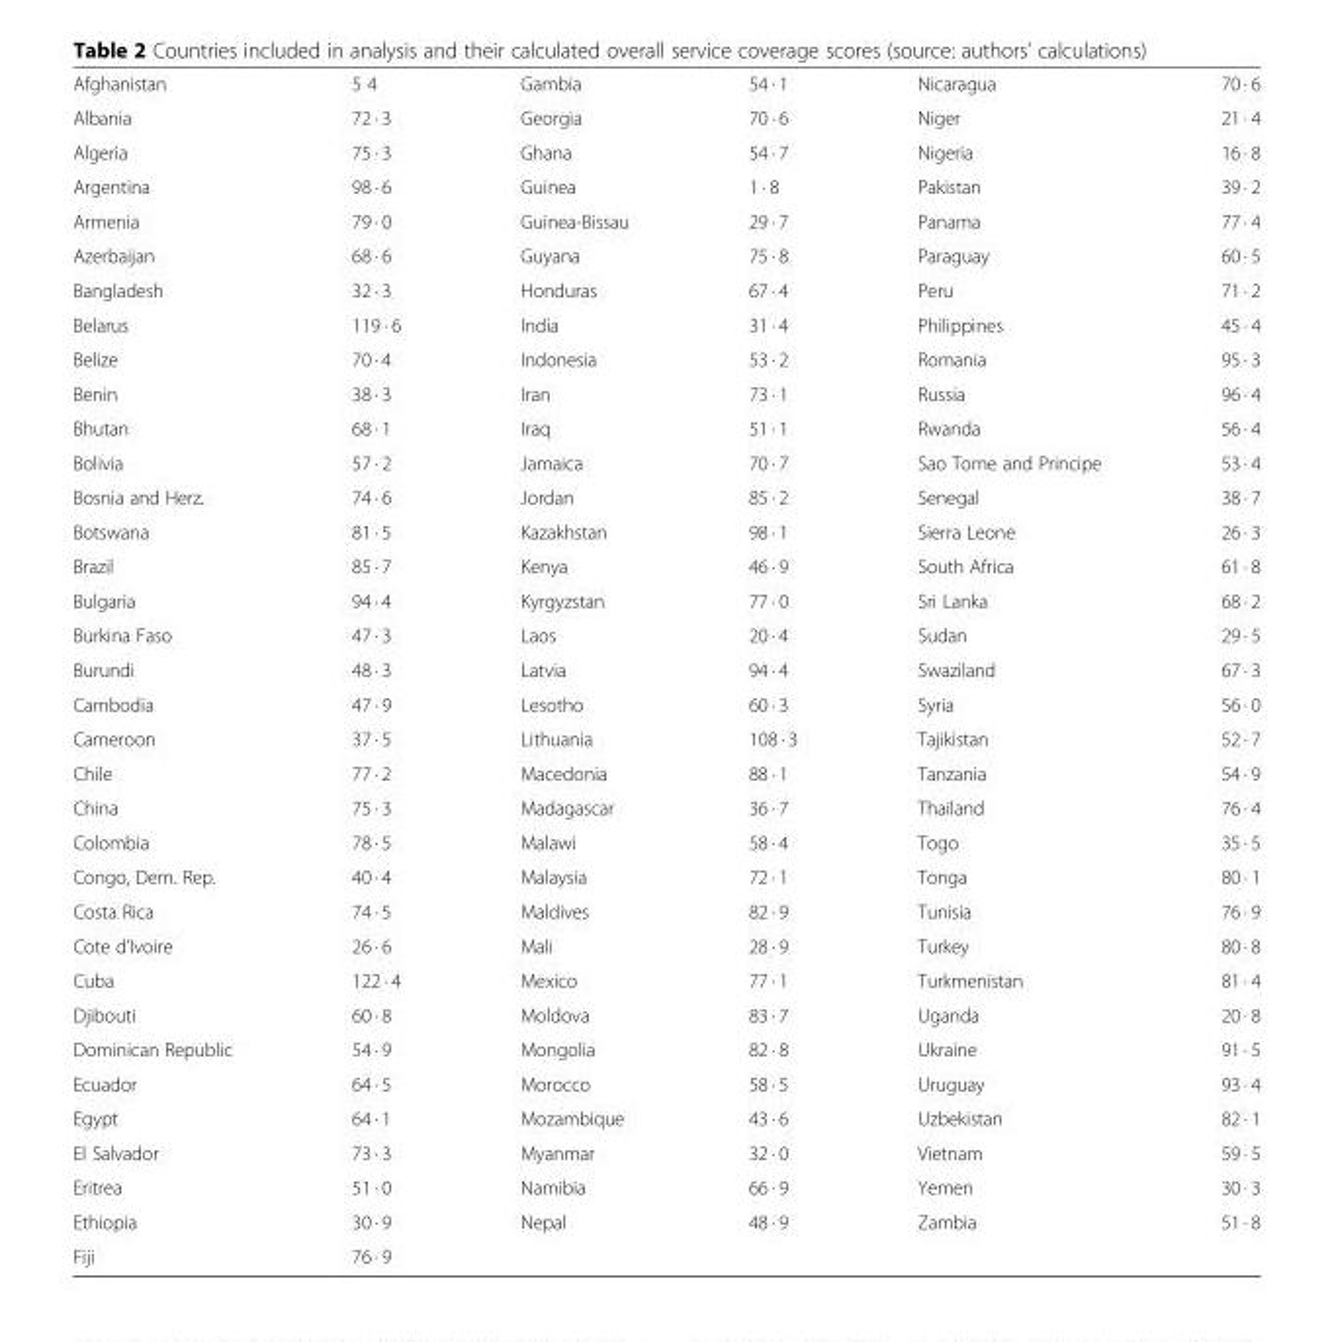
<table><tbody><tr><td>Afghanistan</td><td>5 4</td><td>Gambia</td><td>54 · 1</td><td>Nicaragua</td><td>70 · 6</td></tr><tr><td>Albania</td><td>72 · 3</td><td>Georgia</td><td>70 · 6</td><td>Niger</td><td>21 · 4</td></tr><tr><td>Algeria</td><td>75 · 3</td><td>Ghana</td><td>54 · 7</td><td>Nigeria</td><td>16 · 8</td></tr><tr><td>Argentina</td><td>98 · 6</td><td>Guinea</td><td>1 · 8</td><td>Pakistan</td><td>39 · 2</td></tr><tr><td>Armenia</td><td>79 · 0</td><td>Guinea-Bissau</td><td>29 · 7</td><td>Panama</td><td>77 · 4</td></tr><tr><td>Azerbaijan</td><td>68 · 6</td><td>Guyana</td><td>75 · 8</td><td>Paraguay</td><td>60 · 5</td></tr><tr><td>Bangladesh</td><td>32 · 3</td><td>Honduras</td><td>67 · 4</td><td>Peru</td><td>71 · 2</td></tr><tr><td>Belarus</td><td>119 · 6</td><td>India</td><td>31 · 4</td><td>Philippines</td><td>45 · 4</td></tr><tr><td>Belize</td><td>70 · 4</td><td>Indonesia</td><td>53 · 2</td><td>Romania</td><td>95 · 3</td></tr><tr><td>Benin</td><td>38 · 3</td><td>Iran</td><td>73 · 1</td><td>Russia</td><td>96 · 4</td></tr><tr><td>Bhutan</td><td>68 · 1</td><td>Iraq</td><td>51 · 1</td><td>Rwanda</td><td>56 · 4</td></tr><tr><td>Bolivia</td><td>57 · 2</td><td>Jamaica</td><td>70 · 7</td><td>Sao Tome and Principe</td><td>53 · 4</td></tr><tr><td>Bosnia and Herz.</td><td>74 · 6</td><td>Jordan</td><td>85 · 2</td><td>Senegal</td><td>38 · 7</td></tr><tr><td>Botswana</td><td>81 · 5</td><td>Kazakhstan</td><td>98 · 1</td><td>Sierra Leone</td><td>26 · 3</td></tr><tr><td>Brazil</td><td>85 · 7</td><td>Kenya</td><td>46 · 9</td><td>South Africa</td><td>61 · 8</td></tr><tr><td>Bulgaria</td><td>94 · 4</td><td>Kyrgyzstan</td><td>77 · 0</td><td>Sri Lanka</td><td>68 · 2</td></tr><tr><td>Burkina Faso</td><td>47 · 3</td><td>Laos</td><td>20 · 4</td><td>Sudan</td><td>29 · 5</td></tr><tr><td>Burundi</td><td>48 · 3</td><td>Latvia</td><td>94 · 4</td><td>Swaziland</td><td>67 · 3</td></tr><tr><td>Cambodia</td><td>47 · 9</td><td>Lesotho</td><td>60 · 3</td><td>Syria</td><td>56 · 0</td></tr><tr><td>Cameroon</td><td>37 · 5</td><td>Lithuania</td><td>108 · 3</td><td>Tajikistan</td><td>52 · 7</td></tr><tr><td>Chile</td><td>77 · 2</td><td>Macedonia</td><td>88 · 1</td><td>Tanzania</td><td>54 · 9</td></tr><tr><td>China</td><td>75 · 3</td><td>Madagascar</td><td>36 · 7</td><td>Thailand</td><td>76 · 4</td></tr><tr><td>Colombia</td><td>78 · 5</td><td>Malawi</td><td>58 · 4</td><td>Togo</td><td>35 · 5</td></tr><tr><td>Congo, Dem. Rep.</td><td>40 · 4</td><td>Malaysia</td><td>72 · 1</td><td>Tonga</td><td>80 · 1</td></tr><tr><td>Costa Rica</td><td>74 · 5</td><td>Maldives</td><td>82 · 9</td><td>Tunisia</td><td>76 · 9</td></tr><tr><td>Cote d’Ivoire</td><td>26 · 6</td><td>Mali</td><td>28 · 9</td><td>Turkey</td><td>80 · 8</td></tr><tr><td>Cuba</td><td>122 · 4</td><td>Mexico</td><td>77 · 1</td><td>Turkmenistan</td><td>81 · 4</td></tr><tr><td>Djibouti</td><td>60 · 8</td><td>Moldova</td><td>83 · 7</td><td>Uganda</td><td>20 · 8</td></tr><tr><td>Dominican Republic</td><td>54 · 9</td><td>Mongolia</td><td>82 · 8</td><td>Ukraine</td><td>91 · 5</td></tr><tr><td>Ecuador</td><td>64 · 5</td><td>Morocco</td><td>58 · 5</td><td>Uruguay</td><td>93 · 4</td></tr><tr><td>Egypt</td><td>64 · 1</td><td>Mozambique</td><td>43 · 6</td><td>Uzbekistan</td><td>82 · 1</td></tr><tr><td>El Salvador</td><td>73 · 3</td><td>Myanmar</td><td>32 · 0</td><td>Vietnam</td><td>59 · 5</td></tr><tr><td>Eritrea</td><td>51 · 0</td><td>Namibia</td><td>66 · 9</td><td>Yemen</td><td>30 · 3</td></tr><tr><td>Ethiopia</td><td>30 · 9</td><td>Nepal</td><td>48 · 9</td><td>Zambia</td><td>51 · 8</td></tr><tr><td>Fiji</td><td>76 · 9</td><td></td><td></td><td></td><td></td></tr></tbody></table>